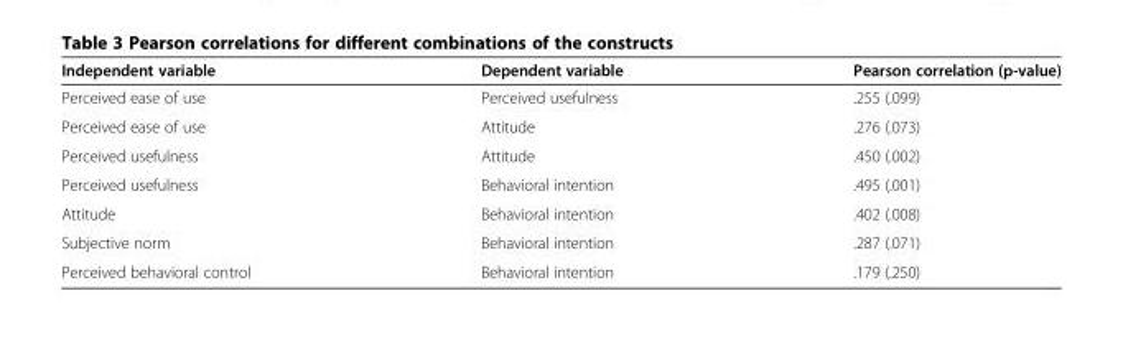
<table><thead><tr><td>Independent variable</td><td>Dependent variable</td><td>Pearson correlation (p-value)</td></tr></thead><tbody><tr><td>Perceived ease of use</td><td>Perceived usefulness</td><td>.255 (.099)</td></tr><tr><td>Perceived ease of use</td><td>Attitude</td><td>.276 (.073)</td></tr><tr><td>Perceived usefulness</td><td>Attitude</td><td>.450 (.002)</td></tr><tr><td>Perceived usefulness</td><td>Behavioral intention</td><td>.495 (.001)</td></tr><tr><td>Attitude</td><td>Behavioral intention</td><td>.402 (.008)</td></tr><tr><td>Subjective norm</td><td>Behavioral intention</td><td>.287 (.071)</td></tr><tr><td>Perceived behavioral control</td><td>Behavioral intention</td><td>.179 (.250)</td></tr></tbody></table>